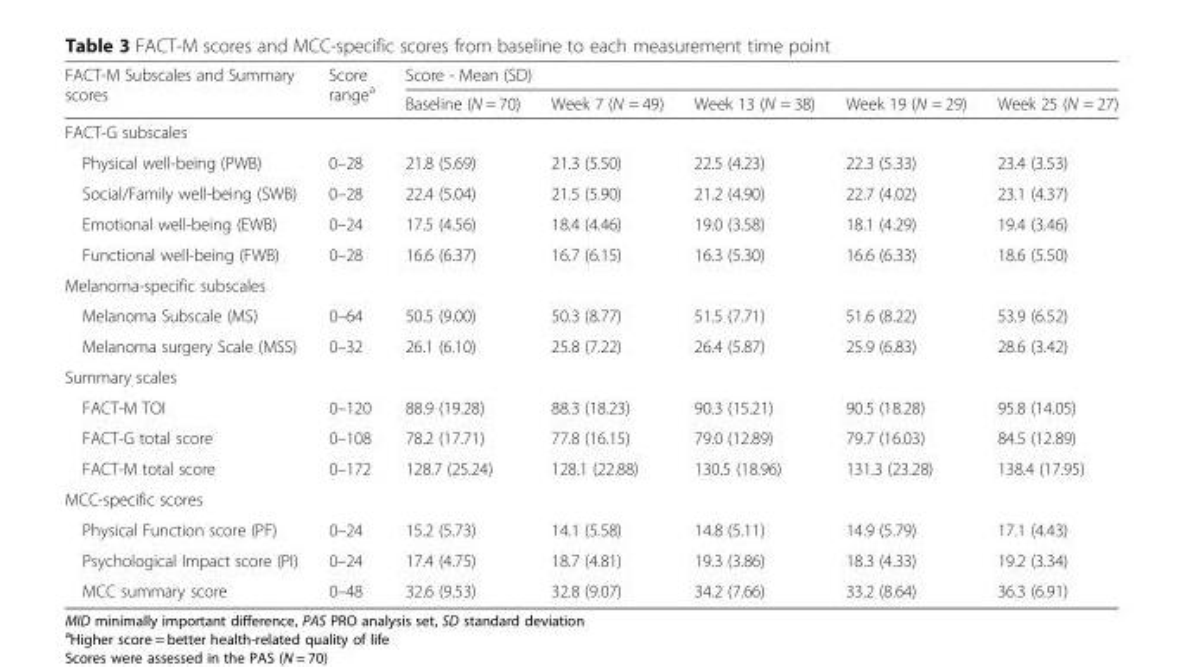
<table><thead><tr><td rowspan="2">FACT-M Subscales and Summary scores</td><td rowspan="2">Score range<sup>a</sup></td><td colspan="5">Score - Mean (SD)</td></tr><tr><td>Baseline (N = 70)</td><td>Week 7 (N = 49)</td><td>Week 13 (N = 38)</td><td>Week 19 (N = 29)</td><td>Week 25 (N = 27)</td></tr></thead><tbody><tr><td colspan="7">FACT-G subscales</td></tr><tr><td>Physical well-being (PWB)</td><td>0–28</td><td>21.8 (5.69)</td><td>21.3 (5.50)</td><td>22.5 (4.23)</td><td>22.3 (5.33)</td><td>23.4 (3.53)</td></tr><tr><td>Social/Family well-being (SWB)</td><td>0–28</td><td>22.4 (5.04)</td><td>21.5 (5.90)</td><td>21.2 (4.90)</td><td>22.7 (4.02)</td><td>23.1 (4.37)</td></tr><tr><td>Emotional well-being (EWB)</td><td>0–24</td><td>17.5 (4.56)</td><td>18.4 (4.46)</td><td>19.0 (3.58)</td><td>18.1 (4.29)</td><td>19.4 (3.46)</td></tr><tr><td>Functional well-being (FWB)</td><td>0–28</td><td>16.6 (6.37)</td><td>16.7 (6.15)</td><td>16.3 (5.30)</td><td>16.6 (6.33)</td><td>18.6 (5.50)</td></tr><tr><td colspan="7">Melanoma-specific subscales</td></tr><tr><td>Melanoma Subscale (MS)</td><td>0–64</td><td>50.5 (9.00)</td><td>50.3 (8.77)</td><td>51.5 (7.71)</td><td>51.6 (8.22)</td><td>53.9 (6.52)</td></tr><tr><td>Melanoma surgery Scale (MSS)</td><td>0–32</td><td>26.1 (6.10)</td><td>25.8 (7.22)</td><td>26.4 (5.87)</td><td>25.9 (6.83)</td><td>28.6 (3.42)</td></tr><tr><td colspan="7">Summary scales</td></tr><tr><td>FACT-M TOI</td><td>0–120</td><td>88.9 (19.28)</td><td>88.3 (18.23)</td><td>90.3 (15.21)</td><td>90.5 (18.28)</td><td>95.8 (14.05)</td></tr><tr><td>FACT-G total score</td><td>0–108</td><td>78.2 (17.71)</td><td>77.8 (16.15)</td><td>79.0 (12.89)</td><td>79.7 (16.03)</td><td>84.5 (12.89)</td></tr><tr><td>FACT-M total score</td><td>0–172</td><td>128.7 (25.24)</td><td>128.1 (22.88)</td><td>130.5 (18.96)</td><td>131.3 (23.28)</td><td>138.4 (17.95)</td></tr><tr><td colspan="7">MCC-specific scores</td></tr><tr><td>Physical Function score (PF)</td><td>0–24</td><td>15.2 (5.73)</td><td>14.1 (5.58)</td><td>14.8 (5.11)</td><td>14.9 (5.79)</td><td>17.1 (4.43)</td></tr><tr><td>Psychological Impact score (PI)</td><td>0–24</td><td>17.4 (4.75)</td><td>18.7 (4.81)</td><td>19.3 (3.86)</td><td>18.3 (4.33)</td><td>19.2 (3.34)</td></tr><tr><td>MCC summary score</td><td>0–48</td><td>32.6 (9.53)</td><td>32.8 (9.07)</td><td>34.2 (7.66)</td><td>33.2 (8.64)</td><td>36.3 (6.91)</td></tr></tbody></table>